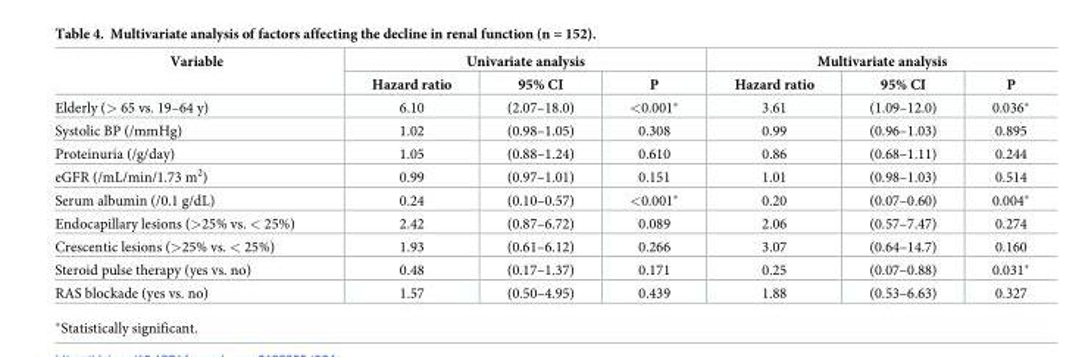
<table><thead><tr><td rowspan="2">Variable</td><td colspan="3">Univariate analysis</td><td colspan="3">Multivariate analysis</td></tr><tr><td>Hazard ratio</td><td>95% CI</td><td>P</td><td>Hazard ratio</td><td>95% CI</td><td>P</td></tr></thead><tbody><tr><td>Elderly (&gt; 65 vs. 19–64 y)</td><td>6.10</td><td>(2.07–18.0)</td><td>&lt;0.001*</td><td>3.61</td><td>(1.09–12.0)</td><td>0.036*</td></tr><tr><td>Systolic BP (/mmHg)</td><td>1.02</td><td>(0.98–1.05)</td><td>0.308</td><td>0.99</td><td>(0.96–1.03)</td><td>0.895</td></tr><tr><td>Proteinuria (/g/day)</td><td>1.05</td><td>(0.88–1.24)</td><td>0.610</td><td>0.86</td><td>(0.68–1.11)</td><td>0.244</td></tr><tr><td>eGFR (/mL/min/1.73 m<sup>2</sup>)</td><td>0.99</td><td>(0.97–1.01)</td><td>0.151</td><td>1.01</td><td>(0.98–1.03)</td><td>0.514</td></tr><tr><td>Serum albumin (/0.1 g/dL)</td><td>0.24</td><td>(0.10–0.57)</td><td>&lt;0.001*</td><td>0.20</td><td>(0.07–0.60)</td><td>0.004*</td></tr><tr><td>Endocapillary lesions (&gt;25% vs. &lt; 25%)</td><td>2.42</td><td>(0.87–6.72)</td><td>0.089</td><td>2.06</td><td>(0.57–7.47)</td><td>0.274</td></tr><tr><td>Crescentic lesions (&gt;25% vs. &lt; 25%)</td><td>1.93</td><td>(0.61–6.12)</td><td>0.266</td><td>3.07</td><td>(0.64–14.7)</td><td>0.160</td></tr><tr><td>Steroid pulse therapy (yes vs. no)</td><td>0.48</td><td>(0.17–1.37)</td><td>0.171</td><td>0.25</td><td>(0.07–0.88)</td><td>0.031*</td></tr><tr><td>RAS blockade (yes vs. no)</td><td>1.57</td><td>(0.50–4.95)</td><td>0.439</td><td>1.88</td><td>(0.53–6.63)</td><td>0.327</td></tr></tbody></table>